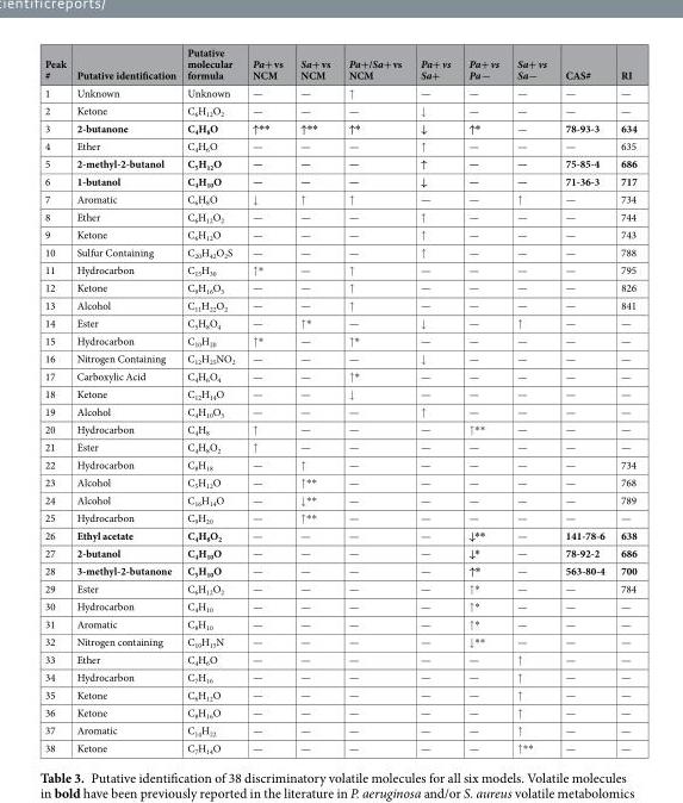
<table><thead><tr><td>Peak #</td><td>Putative identification</td><td>Putative molecular formula</td><td>Pa+ vs NCM</td><td>Sa+ vs NCM</td><td>Pa+/Sa+ vs NCM</td><td>Pa+ vs Sa+</td><td>Pa+ vs Pa−</td><td>Sa+ vs Sa−</td><td>CAS#</td><td>RI</td></tr></thead><tbody><tr><td>1</td><td>Unknown</td><td>Unknown</td><td>—</td><td>—</td><td>↑</td><td>—</td><td>—</td><td>—</td><td>—</td><td>—</td></tr><tr><td>2</td><td>Ketone</td><td>C<sub>6</sub>H<sub>12</sub>O<sub>2</sub></td><td>—</td><td>—</td><td>—</td><td>↓</td><td>—</td><td>—</td><td>—</td><td>—</td></tr><tr><td>3</td><td>2-butanone</td><td>C<sub>4</sub>H<sub>8</sub>O</td><td>↑**</td><td>↑**</td><td>↑*</td><td>↓</td><td>↑*</td><td>—</td><td>78-93-3</td><td>634</td></tr><tr><td>4</td><td>Ether</td><td>C<sub>4</sub>H<sub>6</sub>O</td><td>—</td><td>—</td><td>—</td><td>↑</td><td>—</td><td>—</td><td>—</td><td>635</td></tr><tr><td>5</td><td>2-methyl-2-butanol</td><td>C<sub>5</sub>H<sub>12</sub>O</td><td>—</td><td>—</td><td>—</td><td>↑</td><td>—</td><td>—</td><td>75-85-4</td><td>686</td></tr><tr><td>6</td><td>1-butanol</td><td>C<sub>4</sub>H<sub>10</sub>O</td><td>—</td><td>—</td><td>—</td><td>↓</td><td>—</td><td>—</td><td>71-36-3</td><td>717</td></tr><tr><td>7</td><td>Aromatic</td><td>C<sub>6</sub>H<sub>8</sub>O</td><td>↓</td><td>↑</td><td>↑</td><td>—</td><td>—</td><td>↑</td><td>—</td><td>734</td></tr><tr><td>8</td><td>Ether</td><td>C<sub>6</sub>H<sub>12</sub>O<sub>2</sub></td><td>—</td><td>—</td><td>—</td><td>↑</td><td>—</td><td>—</td><td>—</td><td>744</td></tr><tr><td>9</td><td>Ketone</td><td>C<sub>6</sub>H<sub>12</sub>O</td><td>—</td><td>—</td><td>—</td><td>↑</td><td>—</td><td>—</td><td>—</td><td>743</td></tr><tr><td>10</td><td>Sulfur Containing</td><td>C<sub>20</sub>H<sub>42</sub>O<sub>2</sub>S</td><td>—</td><td>—</td><td>—</td><td>↑</td><td>—</td><td>—</td><td>—</td><td>788</td></tr><tr><td>11</td><td>Hydrocarbon</td><td>C<sub>15</sub>H<sub>30</sub></td><td>↑*</td><td>—</td><td>↑</td><td>—</td><td>—</td><td>—</td><td>—</td><td>795</td></tr><tr><td>12</td><td>Ketone</td><td>C<sub>9</sub>H<sub>16</sub>O<sub>3</sub></td><td>—</td><td>—</td><td>↑</td><td>—</td><td>—</td><td>—</td><td>—</td><td>826</td></tr><tr><td>13</td><td>Alcohol</td><td>C<sub>11</sub>H<sub>22</sub>O<sub>2</sub></td><td>—</td><td>—</td><td>↑</td><td>—</td><td>—</td><td>—</td><td>—</td><td>841</td></tr><tr><td>14</td><td>Ester</td><td>C<sub>5</sub>H<sub>8</sub>O<sub>4</sub></td><td>—</td><td>↑*</td><td>—</td><td>↓</td><td>—</td><td>↑</td><td>—</td><td>—</td></tr><tr><td>15</td><td>Hydrocarbon</td><td>C<sub>10</sub>H<sub>20</sub></td><td>↑*</td><td>—</td><td>↑*</td><td>—</td><td>—</td><td>—</td><td>—</td><td>—</td></tr><tr><td>16</td><td>Nitrogen Containing</td><td>C<sub>12</sub>H<sub>25</sub>NO<sub>2</sub></td><td>—</td><td>—</td><td>—</td><td>↓</td><td>—</td><td>—</td><td>—</td><td>—</td></tr><tr><td>17</td><td>Carboxylic Acid</td><td>C<sub>4</sub>H<sub>6</sub>O<sub>4</sub></td><td>—</td><td>—</td><td>↑*</td><td>—</td><td>—</td><td>—</td><td>—</td><td>—</td></tr><tr><td>18</td><td>Ketone</td><td>C<sub>12</sub>H<sub>14</sub>O</td><td>—</td><td>—</td><td>↓</td><td>—</td><td>—</td><td>—</td><td>—</td><td>—</td></tr><tr><td>19</td><td>Alcohol</td><td>C<sub>4</sub>H<sub>10</sub>O<sub>3</sub></td><td>—</td><td>—</td><td>—</td><td>↑</td><td>—</td><td>—</td><td>—</td><td>—</td></tr><tr><td>20</td><td>Hydrocarbon</td><td>C<sub>4</sub>H<sub>8</sub></td><td>↑</td><td>—</td><td>—</td><td>—</td><td>↑**</td><td>—</td><td>—</td><td>—</td></tr><tr><td>21</td><td>Ester</td><td>C<sub>4</sub>H<sub>8</sub>O<sub>2</sub></td><td>↑</td><td>—</td><td>—</td><td>—</td><td>—</td><td>—</td><td>—</td><td>—</td></tr><tr><td>22</td><td>Hydrocarbon</td><td>C<sub>8</sub>H<sub>18</sub></td><td>—</td><td>↑</td><td>—</td><td>—</td><td>—</td><td>—</td><td>—</td><td>734</td></tr><tr><td>23</td><td>Alcohol</td><td>C<sub>5</sub>H<sub>12</sub>O</td><td>—</td><td>↑**</td><td>—</td><td>—</td><td>—</td><td>—</td><td>—</td><td>768</td></tr><tr><td>24</td><td>Alcohol</td><td>C<sub>16</sub>H<sub>14</sub>O</td><td>—</td><td>↓**</td><td>—</td><td>—</td><td>—</td><td>—</td><td>—</td><td>789</td></tr><tr><td>25</td><td>Hydrocarbon</td><td>C<sub>9</sub>H<sub>20</sub></td><td>—</td><td>↑**</td><td>—</td><td>—</td><td>—</td><td>—</td><td>—</td><td>—</td></tr><tr><td>26</td><td>Ethyl acetate</td><td>C<sub>4</sub>H<sub>8</sub>O<sub>2</sub></td><td>—</td><td>—</td><td>—</td><td>—</td><td>↓**</td><td>—</td><td>141-78-6</td><td>638</td></tr><tr><td>27</td><td>2-butanol</td><td>C<sub>4</sub>H<sub>10</sub>O</td><td>—</td><td>—</td><td>—</td><td>—</td><td>↓*</td><td>—</td><td>78-92-2</td><td>686</td></tr><tr><td>28</td><td>3-methyl-2-butanone</td><td>C<sub>5</sub>H<sub>10</sub>O</td><td>—</td><td>—</td><td>—</td><td>—</td><td>↑*</td><td>—</td><td>563-80-4</td><td>700</td></tr><tr><td>29</td><td>Ester</td><td>C<sub>6</sub>H<sub>12</sub>O<sub>2</sub></td><td>—</td><td>—</td><td>—</td><td>—</td><td>↑*</td><td>—</td><td>—</td><td>784</td></tr><tr><td>30</td><td>Hydrocarbon</td><td>C<sub>4</sub>H<sub>10</sub></td><td>—</td><td>—</td><td>—</td><td>—</td><td>↑*</td><td>—</td><td>—</td><td>—</td></tr><tr><td>31</td><td>Aromatic</td><td>C<sub>8</sub>H<sub>10</sub></td><td>—</td><td>—</td><td>—</td><td>—</td><td>↑*</td><td>—</td><td>—</td><td>—</td></tr><tr><td>32</td><td>Nitrogen containing</td><td>C<sub>10</sub>H<sub>15</sub>N</td><td>—</td><td>—</td><td>—</td><td>—</td><td>↓**</td><td>—</td><td>—</td><td>—</td></tr><tr><td>33</td><td>Ether</td><td>C<sub>4</sub>H<sub>6</sub>O</td><td>—</td><td>—</td><td>—</td><td>—</td><td>—</td><td>↑</td><td>—</td><td>—</td></tr><tr><td>34</td><td>Hydrocarbon</td><td>C<sub>7</sub>H<sub>16</sub></td><td>—</td><td>—</td><td>—</td><td>—</td><td>—</td><td>↑</td><td>—</td><td>—</td></tr><tr><td>35</td><td>Ketone</td><td>C<sub>6</sub>H<sub>12</sub>O</td><td>—</td><td>—</td><td>—</td><td>—</td><td>—</td><td>↑</td><td>—</td><td>—</td></tr><tr><td>36</td><td>Ketone</td><td>C<sub>8</sub>H<sub>16</sub>O</td><td>—</td><td>—</td><td>—</td><td>—</td><td>—</td><td>↑</td><td>—</td><td>—</td></tr><tr><td>37</td><td>Aromatic</td><td>C<sub>14</sub>H<sub>22</sub></td><td>—</td><td>—</td><td>—</td><td>—</td><td>—</td><td>↑</td><td>—</td><td>—</td></tr><tr><td>38</td><td>Ketone</td><td>C<sub>7</sub>H<sub>14</sub>O</td><td>—</td><td>—</td><td>—</td><td>—</td><td>—</td><td>↑**</td><td>—</td><td>—</td></tr></tbody></table>